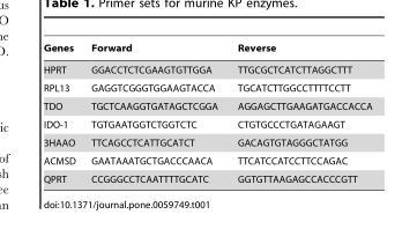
<table><thead><tr><td>Genes</td><td>Forward</td><td>Reverse</td></tr></thead><tbody><tr><td>HPRT</td><td>GGACCTCTCGAAGTGTTGGA</td><td>TTGCGCTCATCTTAGGCTTT</td></tr><tr><td>RPL13</td><td>GAGGTCGGGTGGAAGTACCA</td><td>TGCATCTTGGCCTTTTCCTT</td></tr><tr><td>TDO</td><td>TGCTCAAGGTGATAGCTCGGA</td><td>AGGAGCTTGAAGATGACCACCA</td></tr><tr><td>IDO-1</td><td>TGTGAATGGTCTGGTCTC</td><td>CTGTGCCCTGATAGAAGT</td></tr><tr><td>3HAAO</td><td>TTCAGCCTCATTGCATCT</td><td>GACAGTGTAGGGCTATGG</td></tr><tr><td>ACMSD</td><td>GAATAAATGCTGACCCAACA</td><td>TTCATCCATCCTTCCAGAC</td></tr><tr><td>QPRT</td><td>CCGGGCCTCAATTTTGCATC</td><td>GGTGTTAAGAGCCACCCGTT</td></tr></tbody></table>